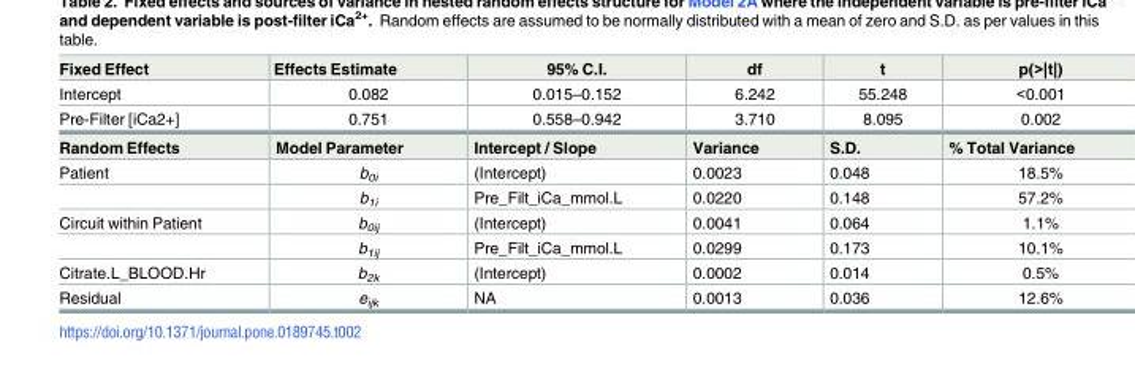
<table><thead><tr><td>Fixed Effect</td><td>Effects Estimate</td><td>95% C.I.</td><td>df</td><td>t</td><td>p(&gt;|t|)</td></tr></thead><tbody><tr><td>Intercept</td><td>0.082</td><td>0.015–0.152</td><td>6.242</td><td>55.248</td><td>&lt;0.001</td></tr><tr><td>Pre-Filter [iCa2+]</td><td>0.751</td><td>0.558–0.942</td><td>3.710</td><td>8.095</td><td>0.002</td></tr><tr><td>Random Effects</td><td>Model Parameter</td><td>Intercept / Slope</td><td>Variance</td><td>S.D.</td><td>% Total Variance</td></tr><tr><td rowspan="2">Patient</td><td>b<sub>0i</sub></td><td>(Intercept)</td><td>0.0023</td><td>0.048</td><td>18.5%</td></tr><tr><td>b<sub>1i</sub></td><td>Pre_Filt_iCa_mmol.L</td><td>0.0220</td><td>0.148</td><td>57.2%</td></tr><tr><td rowspan="2">Circuit within Patient</td><td>b<sub>0ij</sub></td><td>(Intercept)</td><td>0.0041</td><td>0.064</td><td>1.1%</td></tr><tr><td>b<sub>1ij</sub></td><td>Pre_Filt_iCa_mmol.L</td><td>0.0299</td><td>0.173</td><td>10.1%</td></tr><tr><td>Citrate.L_BLOOD.Hr</td><td>b<sub>2k</sub></td><td>(Intercept)</td><td>0.0002</td><td>0.014</td><td>0.5%</td></tr><tr><td>Residual</td><td>e<sub>ijk</sub></td><td>NA</td><td>0.0013</td><td>0.036</td><td>12.6%</td></tr></tbody></table>